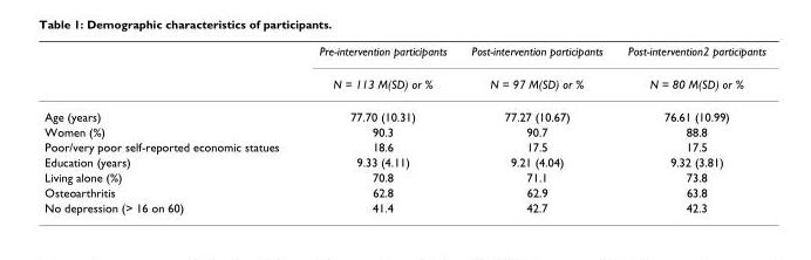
<table><thead><tr><td rowspan="2"></td><td rowspan="2">Pre-intervention participants N = 113 M(SD) or %</td><td rowspan="2">Post-intervention participants N = 97 M(SD) or %</td><td rowspan="2">Post-intervention2 participants N = 80 M(SD) or %</td></tr><tr></tr></thead><tbody><tr><td>Age (years)</td><td>77.70 (10.31)</td><td>77.27 (10.67)</td><td>76.61 (10.99)</td></tr><tr><td>Women (%)</td><td>90.3</td><td>90.7</td><td>88.8</td></tr><tr><td>Poor/very poor self-reported economic statues</td><td>18.6</td><td>17.5</td><td>17.5</td></tr><tr><td>Education (years)</td><td>9.33 (4.11)</td><td>9.21 (4.04)</td><td>9.32 (3.81)</td></tr><tr><td>Living alone (%)</td><td>70.8</td><td>71.1</td><td>73.8</td></tr><tr><td>Osteoarthritis</td><td>62.8</td><td>62.9</td><td>63.8</td></tr><tr><td>No depression (&gt; 16 on 60)</td><td>41.4</td><td>42.7</td><td>42.3</td></tr></tbody></table>